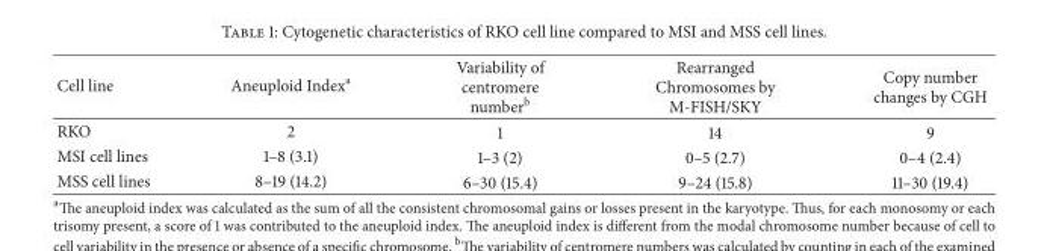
<table><thead><tr><td>Cell line</td><td>Aneuploid Index<sup>a</sup></td><td>Variability of centromere number<sup>b</sup></td><td>Rearranged Chromosomes by M-FISH/SKY</td><td>Copy number changes by CGH</td></tr></thead><tbody><tr><td>RKO</td><td>2</td><td>1</td><td>14</td><td>9</td></tr><tr><td>MSI cell lines</td><td>1–8 (3.1)</td><td>1–3 (2)</td><td>0–5 (2.7)</td><td>0–4 (2.4)</td></tr><tr><td>MSS cell lines</td><td>8–19 (14.2)</td><td>6–30 (15.4)</td><td>9–24 (15.8)</td><td>11–30 (19.4)</td></tr></tbody></table>